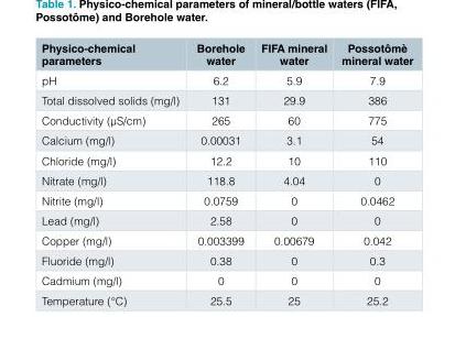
<table><thead><tr><td>Physico-chemical parameters</td><td>Borehole water</td><td>FIFA mineral water</td><td>Possotômè mineral water</td></tr></thead><tbody><tr><td>pH</td><td>6.2</td><td>5.9</td><td>7.9</td></tr><tr><td>Total dissolved solids (mg/l)</td><td>131</td><td>29.9</td><td>386</td></tr><tr><td>Conductivity (μS/cm)</td><td>265</td><td>60</td><td>775</td></tr><tr><td>Calcium (mg/l)</td><td>0.00031</td><td>3.1</td><td>54</td></tr><tr><td>Chloride (mg/l)</td><td>12.2</td><td>10</td><td>110</td></tr><tr><td>Nitrate (mg/l)</td><td>118.8</td><td>4.04</td><td>0</td></tr><tr><td>Nitrite (mg/l)</td><td>0.0759</td><td>0</td><td>0.0462</td></tr><tr><td>Lead (mg/l)</td><td>2.58</td><td>0</td><td>0</td></tr><tr><td>Copper (mg/l)</td><td>0.003399</td><td>0.00679</td><td>0.042</td></tr><tr><td>Fluoride (mg/l)</td><td>0.38</td><td>0</td><td>0.3</td></tr><tr><td>Cadmium (mg/l)</td><td>0</td><td>0</td><td>0</td></tr><tr><td>Temperature (°C)</td><td>25.5</td><td>25</td><td>25.2</td></tr></tbody></table>